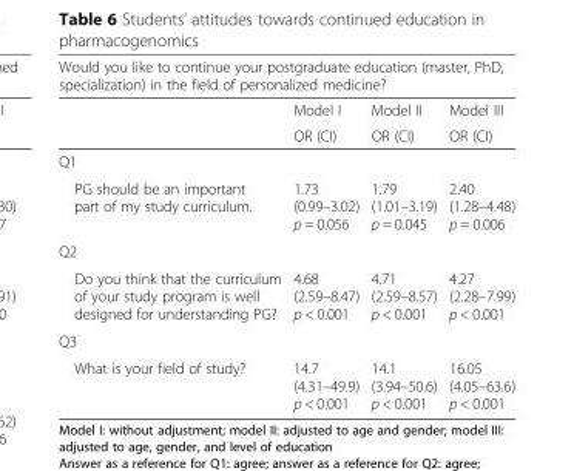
<table><thead><tr><td colspan="4">Would you like to continue your postgraduate education (master, PhD, specialization) in the field of personalized medicine?</td></tr><tr><td rowspan="2"></td><td rowspan="2">Model I OR (CI)</td><td rowspan="2">Model II OR (CI)</td><td rowspan="2">Model III OR (CI)</td></tr><tr></tr></thead><tbody><tr><td colspan="4">Q1</td></tr><tr><td>PG should be an important part of my study curriculum.</td><td>1.73 (0.99–3.02) p = 0.056</td><td>1.79 (1.01–3.19) p = 0.045</td><td>2.40 (1.28–4.48) p = 0.006</td></tr><tr><td colspan="4">Q2</td></tr><tr><td>Do you think that the curriculum of your study program is well designed for understanding PG?</td><td>4.68 (2.59–8.47) p &lt; 0.001</td><td>4.71 (2.59–8.57) p &lt; 0.001</td><td>4.27 (2.28–7.99) p &lt; 0.001</td></tr><tr><td colspan="4">Q3</td></tr><tr><td>What is your field of study?</td><td>14.7 (4.31–49.9) p &lt; 0.001</td><td>14.1 (3.94–50.6) p &lt; 0.001</td><td>16.05 (4.05–63.6) p &lt; 0.001</td></tr></tbody></table>